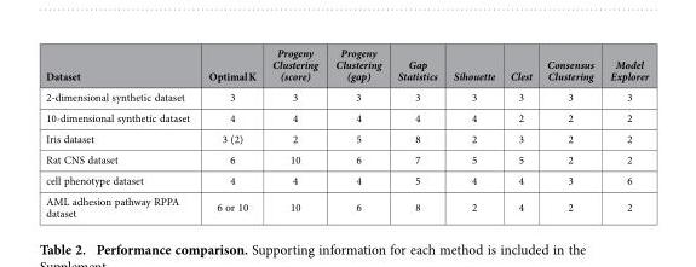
<table><thead><tr><td>Dataset</td><td>Optimal K</td><td>Progeny Clustering (score)</td><td>Progeny Clustering (gap)</td><td>Gap Statistics</td><td>Sihouette</td><td>Clest</td><td>Consensus Clustering</td><td>Model Explorer</td></tr></thead><tbody><tr><td>2-dimensional synthetic dataset</td><td>3</td><td>3</td><td>3</td><td>3</td><td>3</td><td>3</td><td>3</td><td>3</td></tr><tr><td>10-dimensional synthetic dataset</td><td>4</td><td>4</td><td>4</td><td>4</td><td>4</td><td>2</td><td>2</td><td>2</td></tr><tr><td>Iris dataset</td><td>3 (2)</td><td>2</td><td>5</td><td>8</td><td>2</td><td>3</td><td>2</td><td>2</td></tr><tr><td>Rat CNS dataset</td><td>6</td><td>10</td><td>6</td><td>7</td><td>5</td><td>5</td><td>2</td><td>2</td></tr><tr><td>cell phenotype dataset</td><td>4</td><td>4</td><td>4</td><td>5</td><td>4</td><td>4</td><td>3</td><td>6</td></tr><tr><td>AML adhesion pathway RPPA dataset</td><td>6 or 10</td><td>10</td><td>6</td><td>8</td><td>2</td><td>4</td><td>2</td><td>2</td></tr></tbody></table>